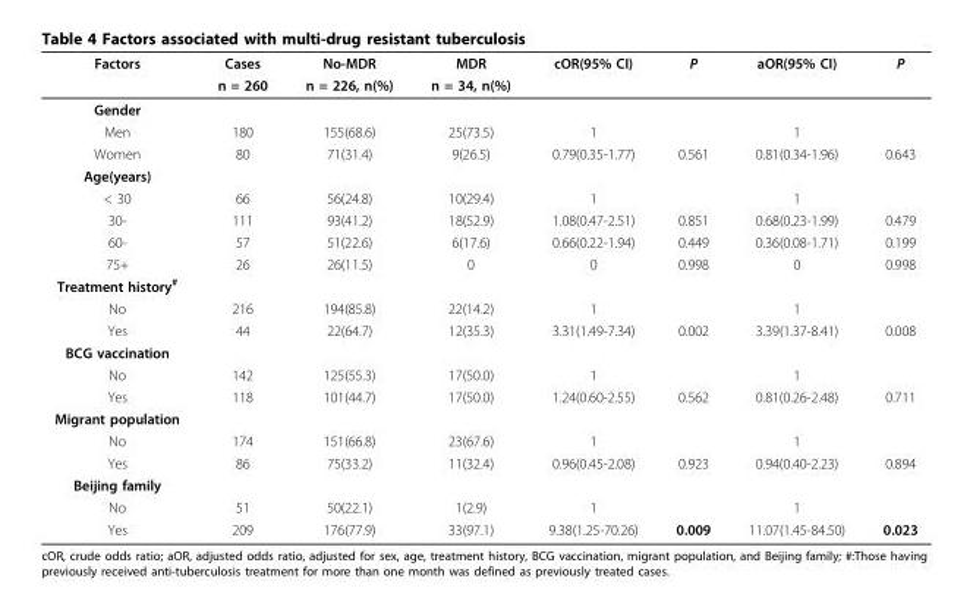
<table><thead><tr><td rowspan="2">Factors</td><td rowspan="2">Cases n = 260</td><td rowspan="2">No-MDR n = 226, n(%)</td><td rowspan="2">MDR n = 34, n(%)</td><td rowspan="2">cOR(95% CI)</td><td rowspan="2">P</td><td rowspan="2">aOR(95% CI)</td><td rowspan="2">P</td></tr><tr></tr></thead><tbody><tr><td colspan="8">Gender</td></tr><tr><td>Men</td><td>180</td><td>155(68.6)</td><td>25(73.5)</td><td>1</td><td></td><td>1</td><td></td></tr><tr><td>Women</td><td>80</td><td>71(31.4)</td><td>9(26.5)</td><td>0.79(0.35-1.77)</td><td>0.561</td><td>0.81(0.34-1.96)</td><td>0.643</td></tr><tr><td colspan="8">Age(years)</td></tr><tr><td>&lt; 30</td><td>66</td><td>56(24.8)</td><td>10(29.4)</td><td>1</td><td></td><td>1</td><td></td></tr><tr><td>30-</td><td>111</td><td>93(41.2)</td><td>18(52.9)</td><td>1.08(0.47-2.51)</td><td>0.851</td><td>0.68(0.23-1.99)</td><td>0.479</td></tr><tr><td>60-</td><td>57</td><td>51(22.6)</td><td>6(17.6)</td><td>0.66(0.22-1.94)</td><td>0.449</td><td>0.36(0.08-1.71)</td><td>0.199</td></tr><tr><td>75+</td><td>26</td><td>26(11.5)</td><td>0</td><td>0</td><td>0.998</td><td>0</td><td>0.998</td></tr><tr><td colspan="8">Treatment history<sup>#</sup></td></tr><tr><td>No</td><td>216</td><td>194(85.8)</td><td>22(14.2)</td><td>1</td><td></td><td>1</td><td></td></tr><tr><td>Yes</td><td>44</td><td>22(64.7)</td><td>12(35.3)</td><td>3.31(1.49-7.34)</td><td>0.002</td><td>3.39(1.37-8.41)</td><td>0.008</td></tr><tr><td colspan="8">BCG vaccination</td></tr><tr><td>No</td><td>142</td><td>125(55.3)</td><td>17(50.0)</td><td>1</td><td></td><td>1</td><td></td></tr><tr><td>Yes</td><td>118</td><td>101(44.7)</td><td>17(50.0)</td><td>1.24(0.60-2.55)</td><td>0.562</td><td>0.81(0.26-2.48)</td><td>0.711</td></tr><tr><td colspan="8">Migrant population</td></tr><tr><td>No</td><td>174</td><td>151(66.8)</td><td>23(67.6)</td><td>1</td><td></td><td>1</td><td></td></tr><tr><td>Yes</td><td>86</td><td>75(33.2)</td><td>11(32.4)</td><td>0.96(0.45-2.08)</td><td>0.923</td><td>0.94(0.40-2.23)</td><td>0.894</td></tr><tr><td colspan="8">Beijing family</td></tr><tr><td>No</td><td>51</td><td>50(22.1)</td><td>1(2.9)</td><td>1</td><td></td><td>1</td><td></td></tr><tr><td>Yes</td><td>209</td><td>176(77.9)</td><td>33(97.1)</td><td>9.38(1.25-70.26)</td><td>0.009</td><td>11.07(1.45-84.50)</td><td>0.023</td></tr></tbody></table>